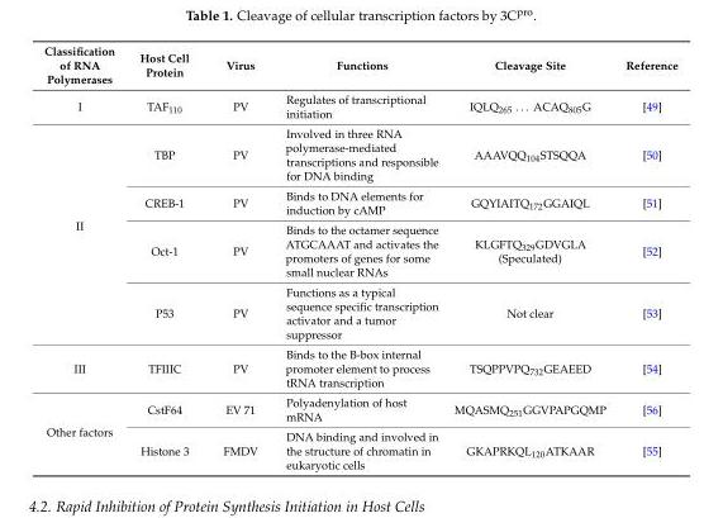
<table><thead><tr><td>Classification of RNA Polymerases</td><td>Host Cell Protein</td><td>Virus</td><td>Functions</td><td>Cleavage Site</td><td>Reference</td></tr></thead><tbody><tr><td>I</td><td>TAF<sub>110</sub></td><td>PV</td><td>Regulates of transcriptional initiation</td><td>IQLQ<sub>265</sub> . . . ACAQ<sub>805</sub>G</td><td>[49]</td></tr><tr><td rowspan="4">II</td><td>TBP</td><td>PV</td><td>Involved in three RNA polymerase-mediated transcriptions and responsible for DNA binding</td><td>AAAVQQ<sub>104</sub>STSQQA</td><td>[50]</td></tr><tr><td>CREB-1</td><td>PV</td><td>Binds to DNA elements for induction by cAMP</td><td>GQYIAITQ<sub>172</sub>GGAIQL</td><td>[51]</td></tr><tr><td>Oct-1</td><td>PV</td><td>Binds to the octamer sequence ATGCAAAT and activates the promoters of genes for some small nuclear RNAs</td><td>KLGFTQ<sub>329</sub>GDVGLA (Speculated)</td><td>[52]</td></tr><tr><td>P53</td><td>PV</td><td>Functions as a typical sequence specific transcription activator and a tumor suppressor</td><td>Not clear</td><td>[53]</td></tr><tr><td>III</td><td>TFIIIC</td><td>PV</td><td>Binds to the B-box internal promoter element to process tRNA transcription</td><td>TSQPPVPQ<sub>732</sub>GEAEED</td><td>[54]</td></tr><tr><td rowspan="2">Other factors</td><td>CstF64</td><td>EV 71</td><td>Polyadenylation of host mRNA</td><td>MQASMQ<sub>251</sub>GGVPAPGQMP</td><td>[56]</td></tr><tr><td>Histone 3</td><td>FMDV</td><td>DNA binding and involved in the structure of chromatin in eukaryotic cells</td><td>GKAPRKQL<sub>120</sub>ATKAAR</td><td>[55]</td></tr></tbody></table>